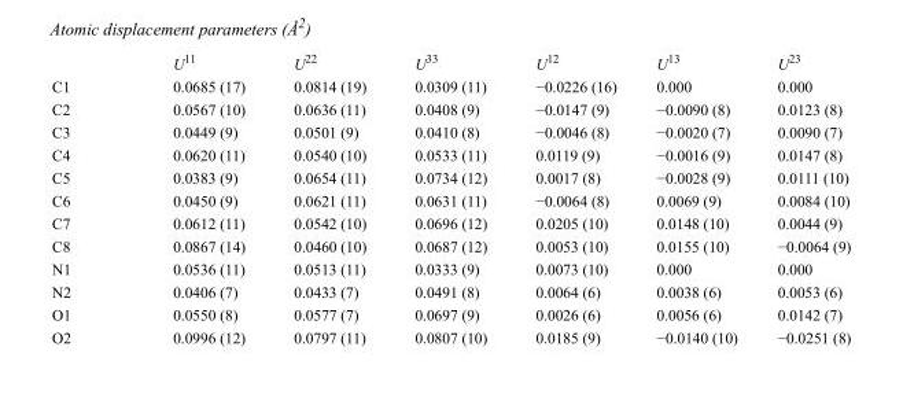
<table><thead><tr><td></td><td>U<sup>11</sup></td><td>U<sup>22</sup></td><td>U<sup>33</sup></td><td>U<sup>12</sup></td><td>U<sup>13</sup></td><td>U<sup>23</sup></td></tr></thead><tbody><tr><td>C1</td><td>0.0685 (17)</td><td>0.0814 (19)</td><td>0.0309 (11)</td><td>−0.0226 (16)</td><td>0.000</td><td>0.000</td></tr><tr><td>C2</td><td>0.0567 (10)</td><td>0.0636 (11)</td><td>0.0408 (9)</td><td>−0.0147 (9)</td><td>−0.0090 (8)</td><td>0.0123 (8)</td></tr><tr><td>C3</td><td>0.0449 (9)</td><td>0.0501 (9)</td><td>0.0410 (8)</td><td>−0.0046 (8)</td><td>−0.0020 (7)</td><td>0.0090 (7)</td></tr><tr><td>C4</td><td>0.0620 (11)</td><td>0.0540 (10)</td><td>0.0533 (11)</td><td>0.0119 (9)</td><td>−0.0016 (9)</td><td>0.0147 (8)</td></tr><tr><td>C5</td><td>0.0383 (9)</td><td>0.0654 (11)</td><td>0.0734 (12)</td><td>0.0017 (8)</td><td>−0.0028 (9)</td><td>0.0111 (10)</td></tr><tr><td>C6</td><td>0.0450 (9)</td><td>0.0621 (11)</td><td>0.0631 (11)</td><td>−0.0064 (8)</td><td>0.0069 (9)</td><td>0.0084 (10)</td></tr><tr><td>C7</td><td>0.0612 (11)</td><td>0.0542 (10)</td><td>0.0696 (12)</td><td>0.0205 (10)</td><td>0.0148 (10)</td><td>0.0044 (9)</td></tr><tr><td>C8</td><td>0.0867 (14)</td><td>0.0460 (10)</td><td>0.0687 (12)</td><td>0.0053 (10)</td><td>0.0155 (10)</td><td>−0.0064 (9)</td></tr><tr><td>N1</td><td>0.0536 (11)</td><td>0.0513 (11)</td><td>0.0333 (9)</td><td>0.0073 (10)</td><td>0.000</td><td>0.000</td></tr><tr><td>N2</td><td>0.0406 (7)</td><td>0.0433 (7)</td><td>0.0491 (8)</td><td>0.0064 (6)</td><td>0.0038 (6)</td><td>0.0053 (6)</td></tr><tr><td>O1</td><td>0.0550 (8)</td><td>0.0577 (7)</td><td>0.0697 (9)</td><td>0.0026 (6)</td><td>0.0056 (6)</td><td>0.0142 (7)</td></tr><tr><td>O2</td><td>0.0996 (12)</td><td>0.0797 (11)</td><td>0.0807 (10)</td><td>0.0185 (9)</td><td>−0.0140 (10)</td><td>−0.0251 (8)</td></tr></tbody></table>